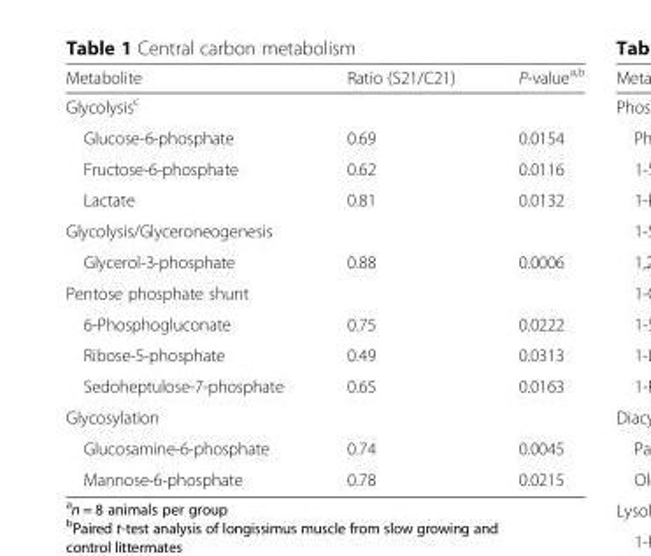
<table><thead><tr><td>Metabolite</td><td>Ratio (S21/C21)</td><td>P-value<sup>a,b</sup></td></tr></thead><tbody><tr><td colspan="3">Glycolysis<sup>c</sup></td></tr><tr><td>Glucose-6-phosphate</td><td>0.69</td><td>0.0154</td></tr><tr><td>Fructose-6-phosphate</td><td>0.62</td><td>0.0116</td></tr><tr><td>Lactate</td><td>0.81</td><td>0.0132</td></tr><tr><td colspan="3">Glycolysis/Glyceroneogenesis</td></tr><tr><td>Glycerol-3-phosphate</td><td>0.88</td><td>0.0006</td></tr><tr><td colspan="3">Pentose phosphate shunt</td></tr><tr><td>6-Phosphogluconate</td><td>0.75</td><td>0.0222</td></tr><tr><td>Ribose-5-phosphate</td><td>0.49</td><td>0.0313</td></tr><tr><td>Sedoheptulose-7-phosphate</td><td>0.65</td><td>0.0163</td></tr><tr><td colspan="3">Glycosylation</td></tr><tr><td>Glucosamine-6-phosphate</td><td>0.74</td><td>0.0045</td></tr><tr><td>Mannose-6-phosphate</td><td>0.78</td><td>0.0215</td></tr></tbody></table>